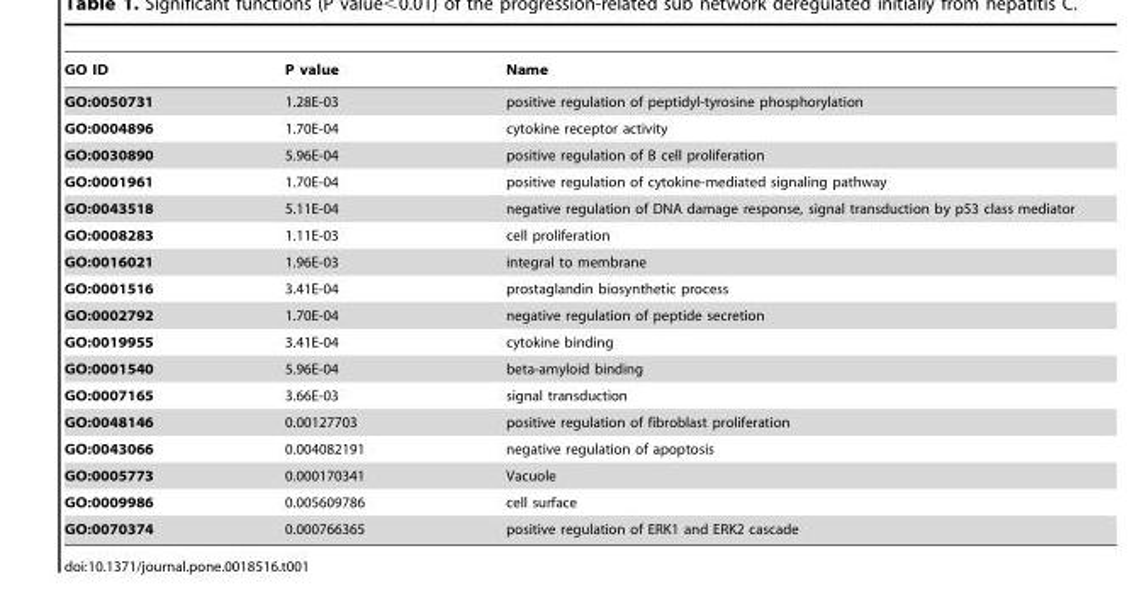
<table><thead><tr><td>GO ID</td><td>P value</td><td>Name</td></tr></thead><tbody><tr><td>GO:0050731</td><td>1.28E-03</td><td>positive regulation of peptidyl-tyrosine phosphorylation</td></tr><tr><td>GO:0004896</td><td>1.70E-04</td><td>cytokine receptor activity</td></tr><tr><td>GO:0030890</td><td>5.96E-04</td><td>positive regulation of B cell proliferation</td></tr><tr><td>GO:0001961</td><td>1.70E-04</td><td>positive regulation of cytokine-mediated signaling pathway</td></tr><tr><td>GO:0043518</td><td>5.11E-04</td><td>negative regulation of DNA damage response, signal transduction by p53 class mediator</td></tr><tr><td>GO:0008283</td><td>1.11E-03</td><td>cell proliferation</td></tr><tr><td>GO:0016021</td><td>1.96E-03</td><td>integral to membrane</td></tr><tr><td>GO:0001516</td><td>3.41E-04</td><td>prostaglandin biosynthetic process</td></tr><tr><td>GO:0002792</td><td>1.70E-04</td><td>negative regulation of peptide secretion</td></tr><tr><td>GO:0019955</td><td>3.41E-04</td><td>cytokine binding</td></tr><tr><td>GO:0001540</td><td>5.96E-04</td><td>beta-amyloid binding</td></tr><tr><td>GO:0007165</td><td>3.66E-03</td><td>signal transduction</td></tr><tr><td>GO:0048146</td><td>0.00127703</td><td>positive regulation of fibroblast proliferation</td></tr><tr><td>GO:0043066</td><td>0.004082191</td><td>negative regulation of apoptosis</td></tr><tr><td>GO:0005773</td><td>0.000170341</td><td>Vacuole</td></tr><tr><td>GO:0009986</td><td>0.005609786</td><td>cell surface</td></tr><tr><td>GO:0070374</td><td>0.000766365</td><td>positive regulation of ERK1 and ERK2 cascade</td></tr></tbody></table>